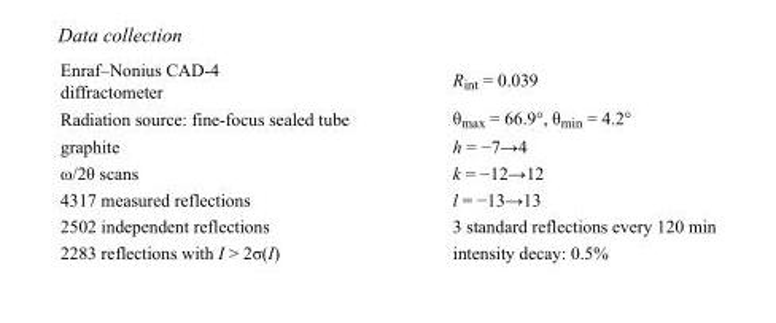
<table><tbody><tr><td>Enraf–Nonius CAD-4 diffractometer</td><td>R<sub>int</sub> = 0.039</td></tr><tr><td>Radiation source: fine-focus sealed tube</td><td>θ<sub>max</sub> = 66.9°, θ<sub>min</sub> = 4.2°</td></tr><tr><td>graphite</td><td>h = −7→4</td></tr><tr><td>ω/2θ scans</td><td>k = −12→12</td></tr><tr><td>4317 measured reflections</td><td>l = −13→13</td></tr><tr><td>2502 independent reflections</td><td>3 standard reflections every 120 min</td></tr><tr><td>2283 reflections with I &gt; 2σ(I)</td><td>intensity decay: 0.5%</td></tr></tbody></table>